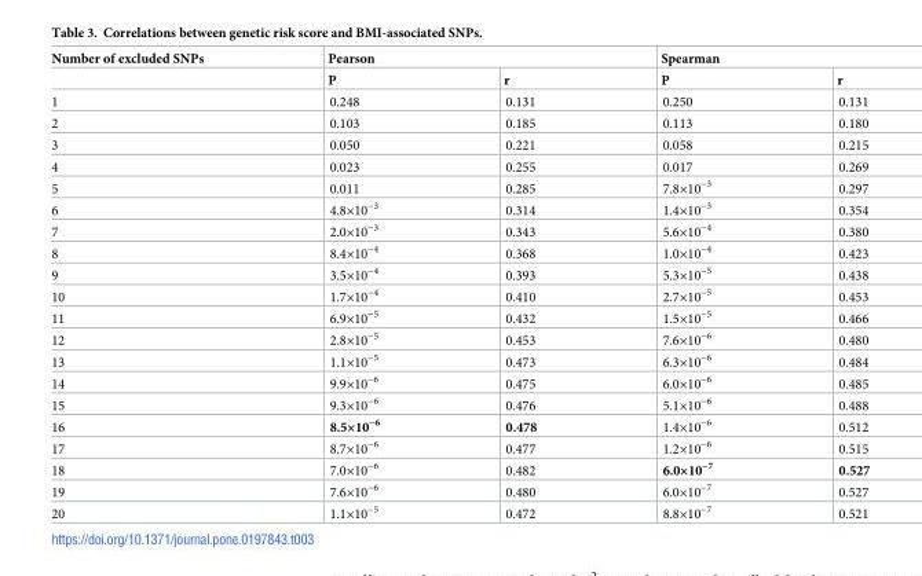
<table><thead><tr><td rowspan="2">Number of excluded SNPs</td><td colspan="2">Pearson</td><td colspan="2">Spearman</td></tr><tr><td>P</td><td>r</td><td>P</td><td>r</td></tr></thead><tbody><tr><td>1</td><td>0.248</td><td>0.131</td><td>0.250</td><td>0.131</td></tr><tr><td>2</td><td>0.103</td><td>0.185</td><td>0.113</td><td>0.180</td></tr><tr><td>3</td><td>0.050</td><td>0.221</td><td>0.058</td><td>0.215</td></tr><tr><td>4</td><td>0.023</td><td>0.255</td><td>0.017</td><td>0.269</td></tr><tr><td>5</td><td>0.011</td><td>0.285</td><td>7.8×10<sup>−3</sup></td><td>0.297</td></tr><tr><td>6</td><td>4.8×10<sup>−3</sup></td><td>0.314</td><td>1.4×10<sup>−3</sup></td><td>0.354</td></tr><tr><td>7</td><td>2.0×10<sup>−3</sup></td><td>0.343</td><td>5.6×10<sup>−4</sup></td><td>0.380</td></tr><tr><td>8</td><td>8.4×10<sup>−4</sup></td><td>0.368</td><td>1.0×10<sup>−4</sup></td><td>0.423</td></tr><tr><td>9</td><td>3.5×10<sup>−4</sup></td><td>0.393</td><td>5.3×10<sup>−5</sup></td><td>0.438</td></tr><tr><td>10</td><td>1.7×10<sup>−4</sup></td><td>0.410</td><td>2.7×10<sup>−5</sup></td><td>0.453</td></tr><tr><td>11</td><td>6.9×10<sup>−5</sup></td><td>0.432</td><td>1.5×10<sup>−5</sup></td><td>0.466</td></tr><tr><td>12</td><td>2.8×10<sup>−5</sup></td><td>0.453</td><td>7.6×10<sup>−6</sup></td><td>0.480</td></tr><tr><td>13</td><td>1.1×10<sup>−5</sup></td><td>0.473</td><td>6.3×10<sup>−6</sup></td><td>0.484</td></tr><tr><td>14</td><td>9.9×10<sup>−6</sup></td><td>0.475</td><td>6.0×10<sup>−6</sup></td><td>0.485</td></tr><tr><td>15</td><td>9.3×10<sup>−6</sup></td><td>0.476</td><td>5.1×10<sup>−6</sup></td><td>0.488</td></tr><tr><td>16</td><td>8.5×10<sup>−6</sup></td><td>0.478</td><td>1.4×10<sup>−6</sup></td><td>0.512</td></tr><tr><td>17</td><td>8.7×10<sup>−6</sup></td><td>0.477</td><td>1.2×10<sup>−6</sup></td><td>0.515</td></tr><tr><td>18</td><td>7.0×10<sup>−6</sup></td><td>0.482</td><td>6.0×10<sup>−7</sup></td><td>0.527</td></tr><tr><td>19</td><td>7.6×10<sup>−6</sup></td><td>0.480</td><td>6.0×10<sup>−7</sup></td><td>0.527</td></tr><tr><td>20</td><td>1.1×10<sup>−5</sup></td><td>0.472</td><td>8.8×10<sup>−7</sup></td><td>0.521</td></tr></tbody></table>